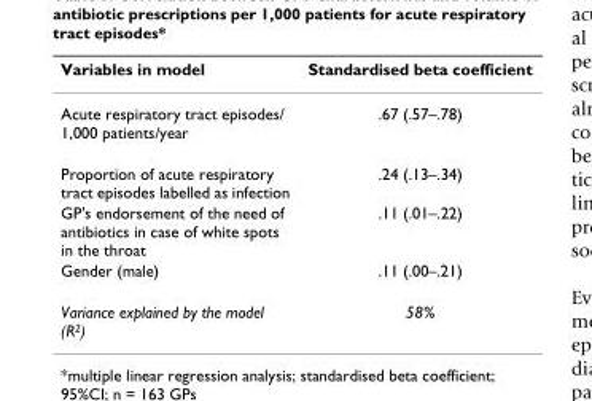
<table><thead><tr><td>Variables in model</td><td>Standardised beta coefficient</td></tr></thead><tbody><tr><td>Acute respiratory tract episodes/ 1,000 patients/year</td><td>.67 (.57–.78)</td></tr><tr><td>Proportion of acute respiratory tract episodes labelled as infection</td><td>.24 (.13–.34)</td></tr><tr><td>GP&#x27;s endorsement of the need of antibiotics in case of white spots in the throat</td><td>.11 (.01–.22)</td></tr><tr><td>Gender (male)</td><td>.11 (.00–.21)</td></tr><tr><td>Variance explained by the model (R<sup>2</sup>)</td><td>58%</td></tr></tbody></table>